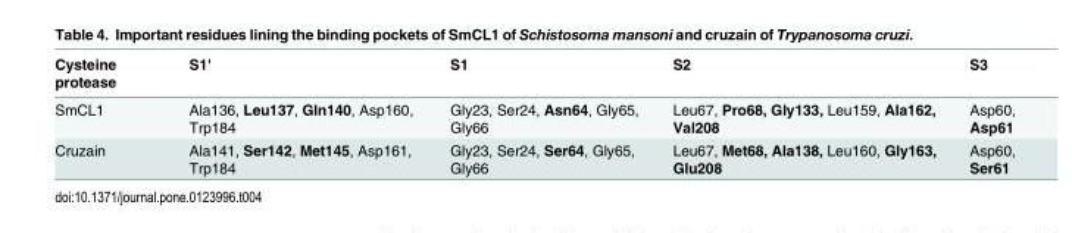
<table><thead><tr><td>Cysteine protease</td><td>S1&#x27;</td><td>S1</td><td>S2</td><td>S3</td></tr></thead><tbody><tr><td>SmCL1</td><td>Ala136, Leu137, Gln140, Asp160, Trp184</td><td>Gly23, Ser24, Asn64, Gly65, Gly66</td><td>Leu67, Pro68, Gly133, Leu159, Ala162, Val208</td><td>Asp60, Asp61</td></tr><tr><td>Cruzain</td><td>Ala141, Ser142, Met145, Asp161, Trp184</td><td>Gly23, Ser24, Ser64, Gly65, Gly66</td><td>Leu67, Met68, Ala138, Leu160, Gly163, Glu208</td><td>Asp60, Ser61</td></tr></tbody></table>